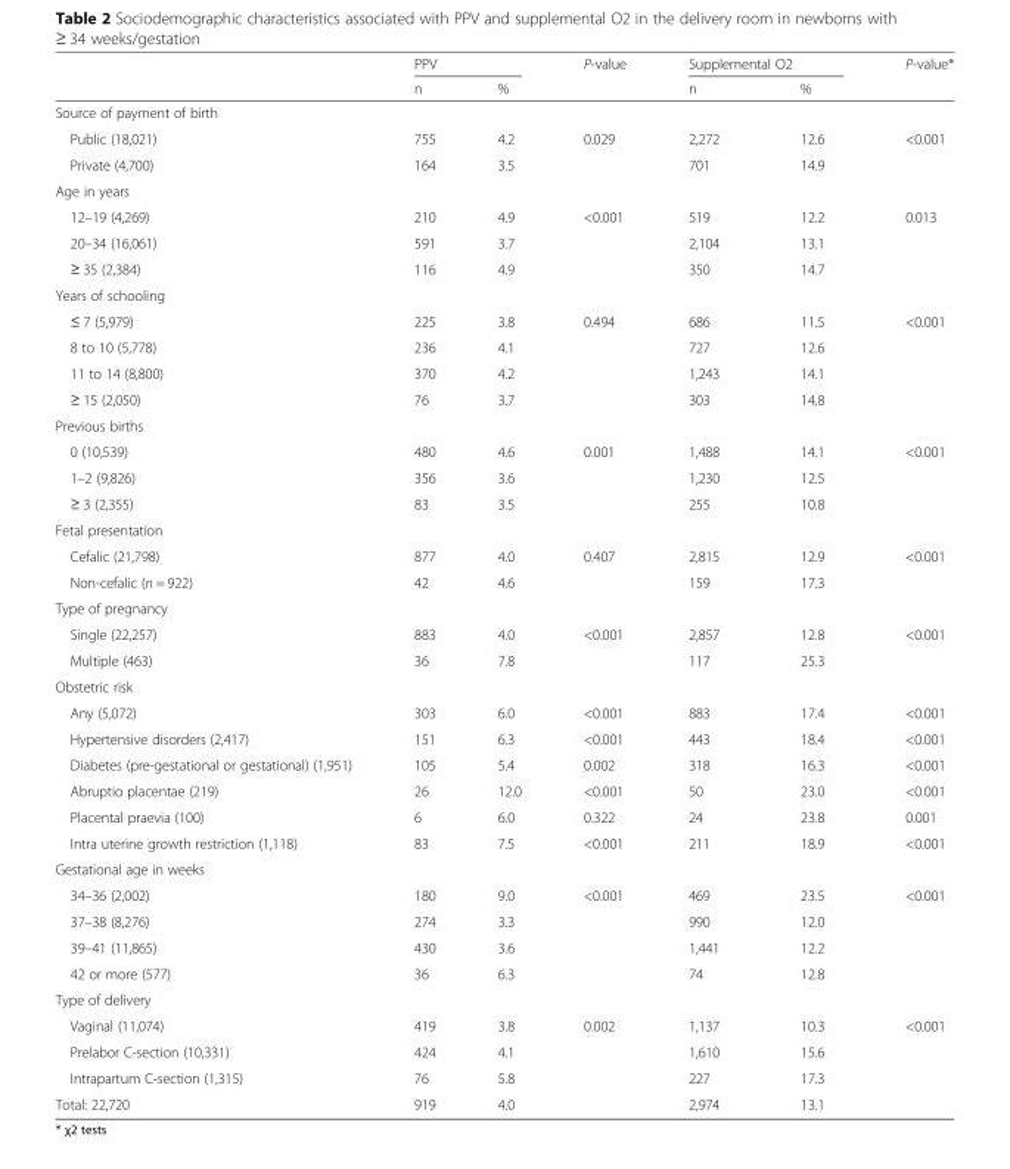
<table><thead><tr><td rowspan="2"></td><td colspan="2">PPV</td><td rowspan="2">P-value</td><td colspan="2">Supplemental O2</td><td rowspan="2">P-value*</td></tr><tr><td>n</td><td>%</td><td>n</td><td>%</td></tr></thead><tbody><tr><td colspan="7">Source of payment of birth</td></tr><tr><td>Public (18,021)</td><td>755</td><td>4.2</td><td rowspan="2">0.029</td><td>2,272</td><td>12.6</td><td rowspan="2">&lt;0.001</td></tr><tr><td>Private (4,700)</td><td>164</td><td>3.5</td><td>701</td><td>14.9</td></tr><tr><td colspan="7">Age in years</td></tr><tr><td>12–19 (4,269)</td><td>210</td><td>4.9</td><td rowspan="3">&lt;0.001</td><td>519</td><td>12.2</td><td rowspan="3">0.013</td></tr><tr><td>20–34 (16,061)</td><td>591</td><td>3.7</td><td>2,104</td><td>13.1</td></tr><tr><td>≥ 35 (2,384)</td><td>116</td><td>4.9</td><td>350</td><td>14.7</td></tr><tr><td colspan="7">Years of schooling</td></tr><tr><td>≤ 7 (5,979)</td><td>225</td><td>3.8</td><td rowspan="4">0.494</td><td>686</td><td>11.5</td><td rowspan="4">&lt;0.001</td></tr><tr><td>8 to 10 (5,778)</td><td>236</td><td>4.1</td><td>727</td><td>12.6</td></tr><tr><td>11 to 14 (8,800)</td><td>370</td><td>4.2</td><td>1,243</td><td>14.1</td></tr><tr><td>≥ 15 (2,050)</td><td>76</td><td>3.7</td><td>303</td><td>14.8</td></tr><tr><td colspan="7">Previous births</td></tr><tr><td>0 (10,539)</td><td>480</td><td>4.6</td><td rowspan="3">0.001</td><td>1,488</td><td>14.1</td><td rowspan="3">&lt;0.001</td></tr><tr><td>1–2 (9,826)</td><td>356</td><td>3.6</td><td>1,230</td><td>12.5</td></tr><tr><td>≥ 3 (2,355)</td><td>83</td><td>3.5</td><td>255</td><td>10.8</td></tr><tr><td colspan="7">Fetal presentation</td></tr><tr><td>Cefalic (21,798)</td><td>877</td><td>4.0</td><td rowspan="2">0.407</td><td>2,815</td><td>12.9</td><td rowspan="2">&lt;0.001</td></tr><tr><td>Non-cefalic (n = 922)</td><td>42</td><td>4.6</td><td>159</td><td>17.3</td></tr><tr><td colspan="7">Type of pregnancy</td></tr><tr><td>Single (22,257)</td><td>883</td><td>4.0</td><td rowspan="2">&lt;0.001</td><td>2,857</td><td>12.8</td><td rowspan="2">&lt;0.001</td></tr><tr><td>Multiple (463)</td><td>36</td><td>7.8</td><td>117</td><td>25.3</td></tr><tr><td colspan="7">Obstetric risk</td></tr><tr><td>Any (5,072)</td><td>303</td><td>6.0</td><td>&lt;0.001</td><td>883</td><td>17.4</td><td>&lt;0.001</td></tr><tr><td>Hypertensive disorders (2,417)</td><td>151</td><td>6.3</td><td>&lt;0.001</td><td>443</td><td>18.4</td><td>&lt;0.001</td></tr><tr><td>Diabetes (pre-gestational or gestational) (1,951)</td><td>105</td><td>5.4</td><td>0.002</td><td>318</td><td>16.3</td><td>&lt;0.001</td></tr><tr><td>Abruptio placentae (219)</td><td>26</td><td>12.0</td><td>&lt;0.001</td><td>50</td><td>23.0</td><td>&lt;0.001</td></tr><tr><td>Placental praevia (100)</td><td>6</td><td>6.0</td><td>0.322</td><td>24</td><td>23.8</td><td>0.001</td></tr><tr><td>Intra uterine growth restriction (1,118)</td><td>83</td><td>7.5</td><td>&lt;0.001</td><td>211</td><td>18.9</td><td>&lt;0.001</td></tr><tr><td colspan="7">Gestational age in weeks</td></tr><tr><td>34–36 (2,002)</td><td>180</td><td>9.0</td><td rowspan="4">&lt;0.001</td><td>469</td><td>23.5</td><td rowspan="4">&lt;0.001</td></tr><tr><td>37–38 (8,276)</td><td>274</td><td>3.3</td><td>990</td><td>12.0</td></tr><tr><td>39–41 (11,865)</td><td>430</td><td>3.6</td><td>1,441</td><td>12.2</td></tr><tr><td>42 or more (577)</td><td>36</td><td>6.3</td><td>74</td><td>12.8</td></tr><tr><td colspan="7">Type of delivery</td></tr><tr><td>Vaginal (11,074)</td><td>419</td><td>3.8</td><td>0.002</td><td>1,137</td><td>10.3</td><td>&lt;0.001</td></tr><tr><td>Prelabor C-section (10,331)</td><td>424</td><td>4.1</td><td></td><td>1,610</td><td>15.6</td><td></td></tr><tr><td>Intrapartum C-section (1,315)</td><td>76</td><td>5.8</td><td></td><td>227</td><td>17.3</td><td></td></tr><tr><td>Total: 22,720</td><td>919</td><td>4.0</td><td></td><td>2,974</td><td>13.1</td><td></td></tr></tbody></table>